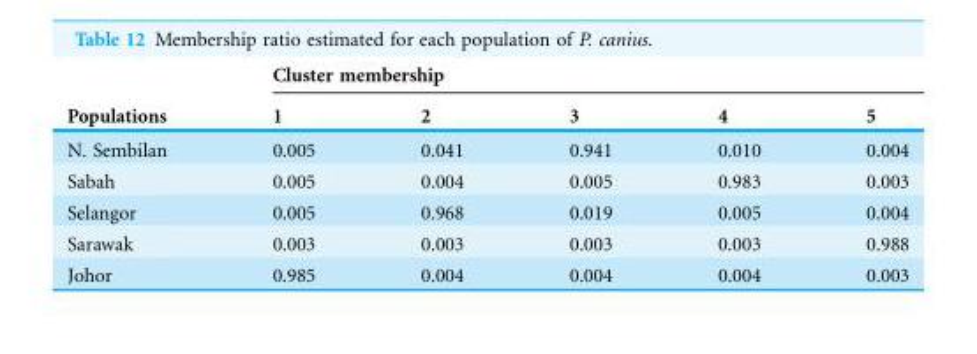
<table><thead><tr><td rowspan="2">Populations</td><td colspan="5">Cluster membership</td></tr><tr><td>1</td><td>2</td><td>3</td><td>4</td><td>5</td></tr></thead><tbody><tr><td>N. Sembilan</td><td>0.005</td><td>0.041</td><td>0.941</td><td>0.010</td><td>0.004</td></tr><tr><td>Sabah</td><td>0.005</td><td>0.004</td><td>0.005</td><td>0.983</td><td>0.003</td></tr><tr><td>Selangor</td><td>0.005</td><td>0.968</td><td>0.019</td><td>0.005</td><td>0.004</td></tr><tr><td>Sarawak</td><td>0.003</td><td>0.003</td><td>0.003</td><td>0.003</td><td>0.988</td></tr><tr><td>Johor</td><td>0.985</td><td>0.004</td><td>0.004</td><td>0.004</td><td>0.003</td></tr></tbody></table>